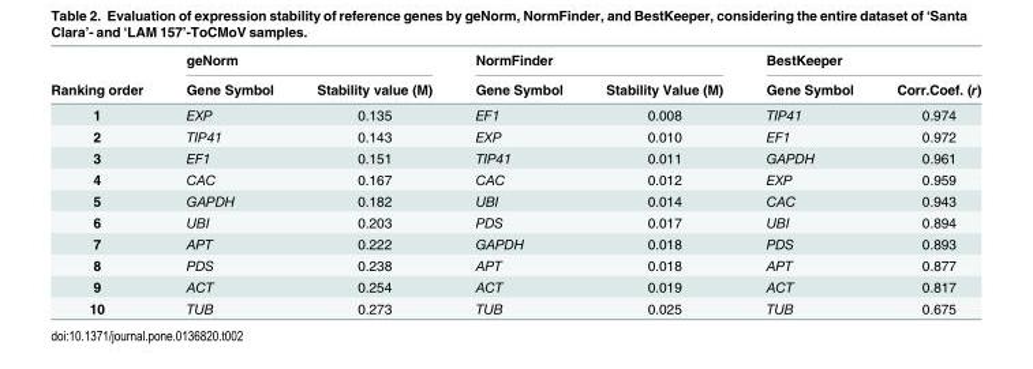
<table><thead><tr><td rowspan="2">Ranking order</td><td colspan="2">geNorm</td><td colspan="2">NormFinder</td><td colspan="2">BestKeeper</td></tr><tr><td>Gene Symbol</td><td>Stability value (M)</td><td>Gene Symbol</td><td>Stability Value (M)</td><td>Gene Symbol</td><td>Corr.Coef. (r)</td></tr></thead><tbody><tr><td>1</td><td>EXP</td><td>0.135</td><td>EF1</td><td>0.008</td><td>TIP41</td><td>0.974</td></tr><tr><td>2</td><td>TIP41</td><td>0.143</td><td>EXP</td><td>0.010</td><td>EF1</td><td>0.972</td></tr><tr><td>3</td><td>EF1</td><td>0.151</td><td>TIP41</td><td>0.011</td><td>GAPDH</td><td>0.961</td></tr><tr><td>4</td><td>CAC</td><td>0.167</td><td>CAC</td><td>0.012</td><td>EXP</td><td>0.959</td></tr><tr><td>5</td><td>GAPDH</td><td>0.182</td><td>UBI</td><td>0.014</td><td>CAC</td><td>0.943</td></tr><tr><td>6</td><td>UBI</td><td>0.203</td><td>PDS</td><td>0.017</td><td>UBI</td><td>0.894</td></tr><tr><td>7</td><td>APT</td><td>0.222</td><td>GAPDH</td><td>0.018</td><td>PDS</td><td>0.893</td></tr><tr><td>8</td><td>PDS</td><td>0.238</td><td>APT</td><td>0.018</td><td>APT</td><td>0.877</td></tr><tr><td>9</td><td>ACT</td><td>0.254</td><td>ACT</td><td>0.019</td><td>ACT</td><td>0.817</td></tr><tr><td>10</td><td>TUB</td><td>0.273</td><td>TUB</td><td>0.025</td><td>TUB</td><td>0.675</td></tr></tbody></table>